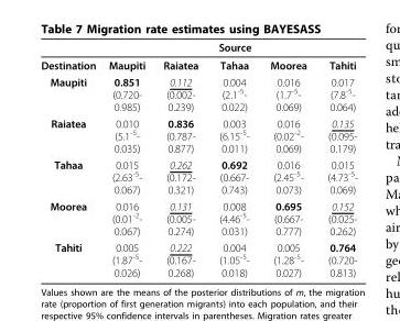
<table><thead><tr><td rowspan="2">Destination</td><td colspan="5">Source</td></tr><tr><td>Maupiti</td><td>Raiatea</td><td>Tahaa</td><td>Moorea</td><td>Tahiti</td></tr></thead><tbody><tr><td>Maupiti</td><td>0.851 (0.720- 0.985)</td><td>0.112 (0.002- 0.239)</td><td>0.004 (2.1<sup>-5</sup>- 0.022)</td><td>0.016 (1.7<sup>-5</sup>- 0.069)</td><td>0.017 (7.8<sup>-5</sup>- 0.064)</td></tr><tr><td>Raiatea</td><td>0.010 (5.1<sup>-5</sup>- 0.035)</td><td>0.836 (0.787- 0.877)</td><td>0.003 (6.15<sup>-5</sup>- 0.011)</td><td>0.016 (0.02<sup>-2</sup>- 0.069)</td><td>0.135 (0.095- 0.179)</td></tr><tr><td>Tahaa</td><td>0.015 (2.63<sup>-5</sup>- 0.067)</td><td>0.262 (0.172- 0.321)</td><td>0.692 (0.667- 0.743)</td><td>0.016 (2.45<sup>-5</sup>- 0.073)</td><td>0.015 (4.73<sup>-5</sup>- 0.069)</td></tr><tr><td>Moorea</td><td>0.016 (0.01<sup>-2</sup>- 0.067)</td><td>0.131 (0.005- 0.274)</td><td>0.008 (4.46<sup>-5</sup>- 0.031)</td><td>0.695 (0.667- 0.777)</td><td>0.152 (0.025- 0.262)</td></tr><tr><td>Tahiti</td><td>0.005 (1.87<sup>-5</sup>- 0.026)</td><td>0.222 (0.167- 0.268)</td><td>0.004 (1.05<sup>-5</sup>- 0.018)</td><td>0.005 (1.28<sup>-5</sup>- 0.027)</td><td>0.764 (0.720- 0.813)</td></tr></tbody></table>